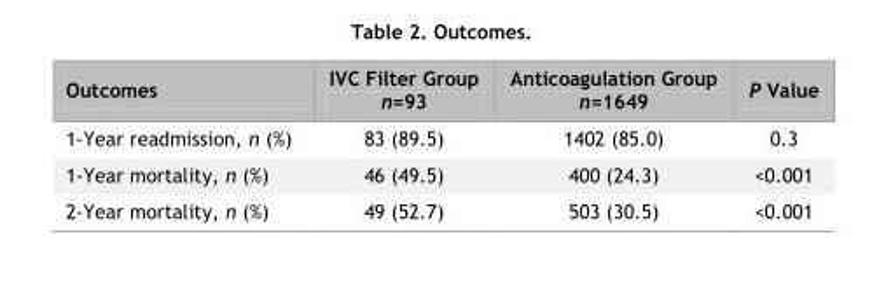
<table><thead><tr><td>Outcomes</td><td>IVC Filter Group n=93</td><td>Anticoagulation Group n=1649</td><td>P Value</td></tr></thead><tbody><tr><td>1-Year readmission, n (%)</td><td>83 (89.5)</td><td>1402 (85.0)</td><td>0.3</td></tr><tr><td>1-Year mortality, n (%)</td><td>46 (49.5)</td><td>400 (24.3)</td><td>&lt;0.001</td></tr><tr><td>2-Year mortality, n (%)</td><td>49 (52.7)</td><td>503 (30.5)</td><td>&lt;0.001</td></tr></tbody></table>